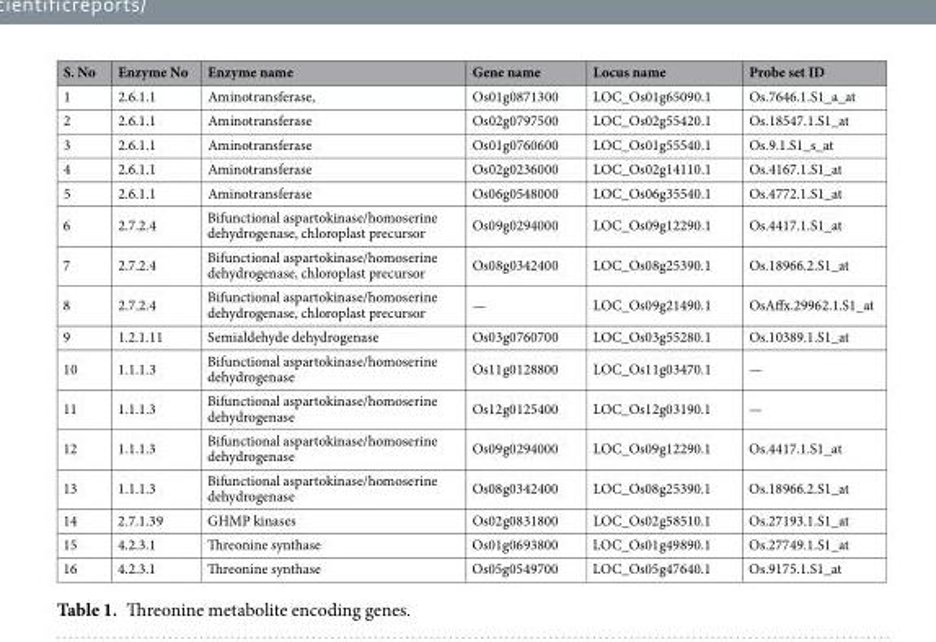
<table><thead><tr><td>S. No</td><td>Enzyme No</td><td>Enzyme name</td><td>Gene name</td><td>Locus name</td><td>Probe set ID</td></tr></thead><tbody><tr><td>1</td><td>2.6.1.1</td><td>Aminotransferase,</td><td>Os01g0871300</td><td>LOC_Os01g65090.1</td><td>Os.7646.1.S1_a_at</td></tr><tr><td>2</td><td>2.6.1.1</td><td>Aminotransferase</td><td>Os02g0797500</td><td>LOC_Os02g55420.1</td><td>Os.18547.1.S1_at</td></tr><tr><td>3</td><td>2.6.1.1</td><td>Aminotransferase</td><td>Os01g0760600</td><td>LOC_Os01g55540.1</td><td>Os.9.1.S1_s_at</td></tr><tr><td>4</td><td>2.6.1.1</td><td>Aminotransferase</td><td>Os02g0236000</td><td>LOC_Os02g14110.1</td><td>Os.4167.1.S1_at</td></tr><tr><td>5</td><td>2.6.1.1</td><td>Aminotransferase</td><td>Os06g0548000</td><td>LOC_Os06g35540.1</td><td>Os.4772.1.S1_at</td></tr><tr><td>6</td><td>2.7.2.4</td><td>Bifunctional aspartokinase/homoserine dehydrogenase, chloroplast precursor</td><td>Os09g0294000</td><td>LOC_Os09g12290.1</td><td>Os.4417.1.S1_at</td></tr><tr><td>7</td><td>2.7.2.4</td><td>Bifunctional aspartokinase/homoserine dehydrogenase, chloroplast precursor</td><td>Os08g0342400</td><td>LOC_Os08g25390.1</td><td>Os.18966.2.S1_at</td></tr><tr><td>8</td><td>2.7.2.4</td><td>Bifunctional aspartokinase/homoserine dehydrogenase, chloroplast precursor</td><td>—</td><td>LOC_Os09g21490.1</td><td>OsAffx.29962.1.S1_at</td></tr><tr><td>9</td><td>1.2.1.11</td><td>Semialdehyde dehydrogenase</td><td>Os03g0760700</td><td>LOC_Os03g55280.1</td><td>Os.10389.1.S1_at</td></tr><tr><td>10</td><td>1.1.1.3</td><td>Bifunctional aspartokinase/homoserine dehydrogenase</td><td>Os11g0128800</td><td>LOC_Os11g03470.1</td><td>—</td></tr><tr><td>11</td><td>1.1.1.3</td><td>Bifunctional aspartokinase/homoserine dehydrogenase</td><td>Os12g0125400</td><td>LOC_Os12g03190.1</td><td>—</td></tr><tr><td>12</td><td>1.1.1.3</td><td>Bifunctional aspartokinase/homoserine dehydrogenase</td><td>Os09g0294000</td><td>LOC_Os09g12290.1</td><td>Os.4417.1.S1_at</td></tr><tr><td>13</td><td>1.1.1.3</td><td>Bifunctional aspartokinase/homoserine dehydrogenase</td><td>Os08g0342400</td><td>LOC_Os08g25390.1</td><td>Os.18966.2.S1_at</td></tr><tr><td>14</td><td>2.7.1.39</td><td>GHMP kinases</td><td>Os02g0831800</td><td>LOC_Os02g58510.1</td><td>Os.27193.1.S1_at</td></tr><tr><td>15</td><td>4.2.3.1</td><td>Threonine synthase</td><td>Os01g0693800</td><td>LOC_Os01g49890.1</td><td>Os.27749.1.S1_at</td></tr><tr><td>16</td><td>4.2.3.1</td><td>Threonine synthase</td><td>Os05g0549700</td><td>LOC_Os05g47640.1</td><td>Os.9175.1.S1_at</td></tr></tbody></table>